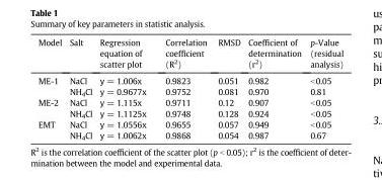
<table><thead><tr><td>Model</td><td>Salt</td><td>Regression equation of scatter plot</td><td>Correlation coefficient (R<sup>2</sup>)</td><td>RMSD</td><td>Coefficient of determination (r<sup>2</sup>)</td><td>p-Value (residual analysis)</td></tr></thead><tbody><tr><td rowspan="2">ME-1</td><td>NaCl</td><td>y = 1.006x</td><td>0.9823</td><td>0.051</td><td>0.982</td><td>&lt;0.05</td></tr><tr><td>NH<sub>4</sub>Cl</td><td>y = 0.9677x</td><td>0.9752</td><td>0.081</td><td>0.970</td><td>0.81</td></tr><tr><td rowspan="2">ME-2</td><td>NaCl</td><td>y = 1.115x</td><td>0.9711</td><td>0.12</td><td>0.907</td><td>&lt;0.05</td></tr><tr><td>NH<sub>4</sub>Cl</td><td>y = 1.1125x</td><td>0.9748</td><td>0.128</td><td>0.924</td><td>&lt;0.05</td></tr><tr><td rowspan="2">EMT</td><td>NaCl</td><td>y = 1.0556x</td><td>0.9655</td><td>0.057</td><td>0.949</td><td>&lt;0.05</td></tr><tr><td>NH<sub>4</sub>Cl</td><td>y = 1.0062x</td><td>0.9868</td><td>0.054</td><td>0.987</td><td>0.67</td></tr></tbody></table>